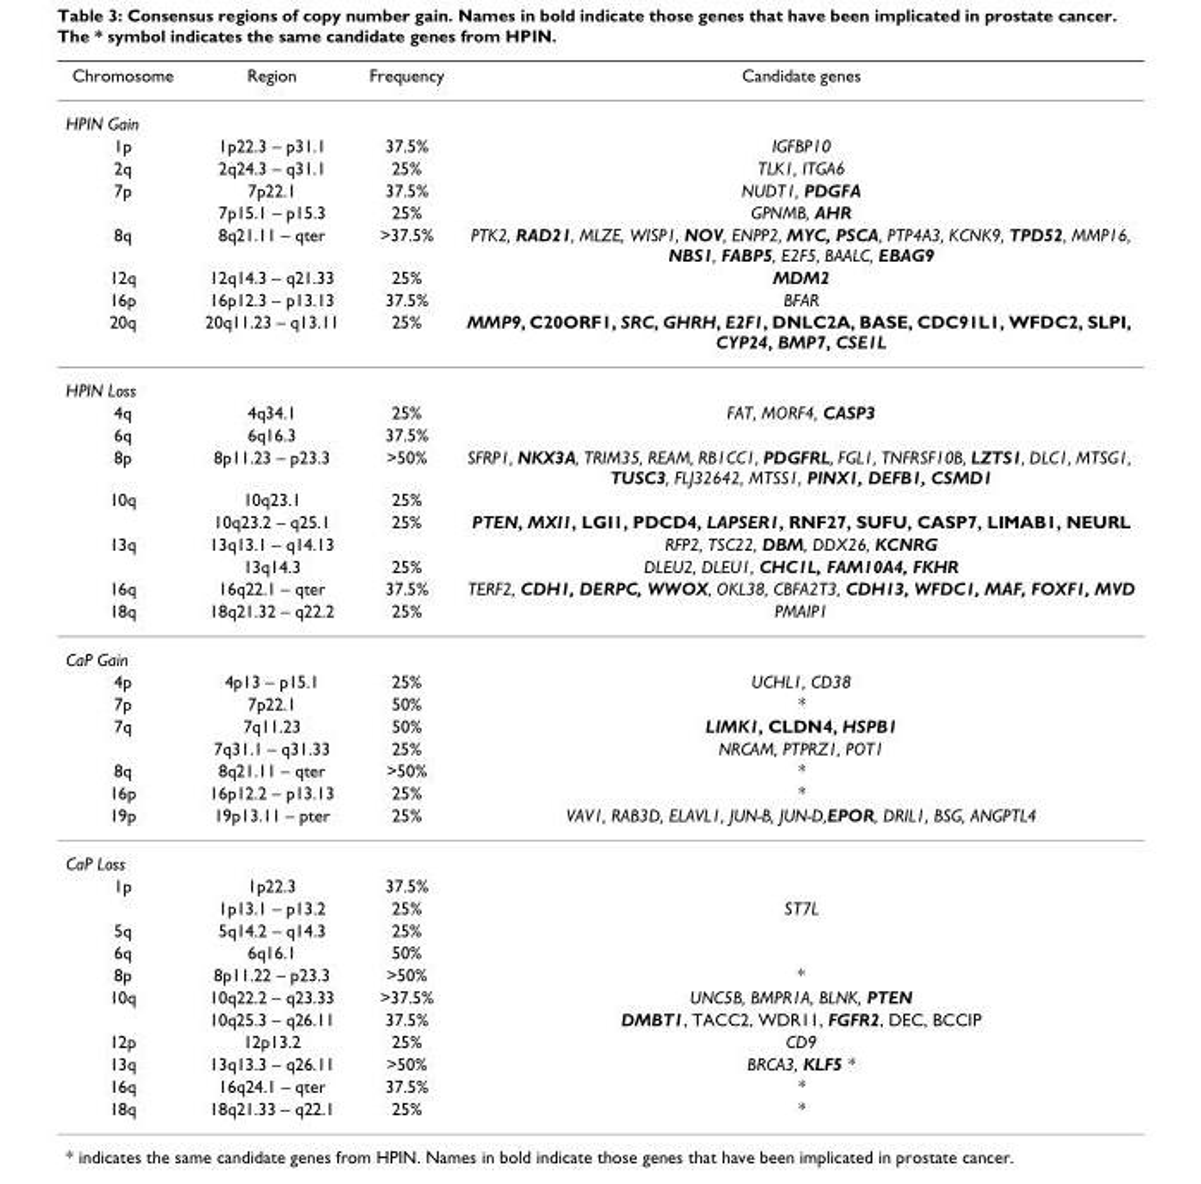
<table><thead><tr><td>Chromosome</td><td>Region</td><td>Frequency</td><td>Candidate genes</td></tr></thead><tbody><tr><td colspan="4">HPIN Gain</td></tr><tr><td>1p</td><td>1p22.3 – p31.1</td><td>37.5%</td><td>IGFBP10</td></tr><tr><td>2q</td><td>2q24.3 – q31.1</td><td>25%</td><td>TLK1, ITGA6</td></tr><tr><td rowspan="2">7p</td><td>7p22.1</td><td>37.5%</td><td>NUDT1, PDGFA</td></tr><tr><td>7p15.1 – p15.3</td><td>25%</td><td>GPNMB, AHR</td></tr><tr><td>8q</td><td>8q21.11 – qter</td><td>&gt;37.5%</td><td>PTK2, RAD21, MLZE, WISP1, NOV, ENPP2, MYC, PSCA, PTP4A3, KCNK9, TPD52, MMP16, NBS1, FABP5, E2F5, BAALC, EBAG9</td></tr><tr><td>12q</td><td>12q14.3 – q21.33</td><td>25%</td><td>MDM2</td></tr><tr><td>16p</td><td>16p12.3 – p13.13</td><td>37.5%</td><td>BFAR</td></tr><tr><td>20q</td><td>20q11.23 – q13.11</td><td>25%</td><td>MMP9, C20ORF1, SRC, GHRH, E2F1, DNLC2A, BASE, CDC91L1, WFDC2, SLPI, CYP24, BMP7, CSE1L</td></tr><tr><td colspan="4">HPIN Loss</td></tr><tr><td>4q</td><td>4q34.1</td><td>25%</td><td>FAT, MORF4, CASP3</td></tr><tr><td>6q</td><td>6q16.3</td><td>37.5%</td><td></td></tr><tr><td>8p</td><td>8p11.23 – p23.3</td><td>&gt;50%</td><td>SFRP1, NKX3A, TRIM35, REAM, RB1CC1, PDGFRL, FGL1, TNFRSF10B, LZTS1, DLC1, MTSG1, TUSC3, FLJ32642, MTSS1, PINX1, DEFB1, CSMD1</td></tr><tr><td rowspan="2">10q</td><td>10q23.1</td><td>25%</td><td></td></tr><tr><td>10q23.2 – q25.1</td><td>25%</td><td>PTEN, MXI1, LGI1, PDCD4, LAPSER1, RNF27, SUFU, CASP7, LIMAB1, NEURL</td></tr><tr><td rowspan="2">13q</td><td>13q13.1 – q14.13</td><td></td><td>RFP2, TSC22, DBM, DDX26, KCNRG</td></tr><tr><td>13q14.3</td><td>25%</td><td>DLEU2, DLEU1, CHC1L, FAM10A4, FKHR</td></tr><tr><td>16q</td><td>16q22.1 – qter</td><td>37.5%</td><td>TERF2, CDH1, DERPC, WWOX, OKL38, CBFA2T3, CDH13, WFDC1, MAF, FOXF1, MVD</td></tr><tr><td>18q</td><td>18q21.32 – q22.2</td><td>25%</td><td>PMAIP1</td></tr><tr><td colspan="4">CaP Gain</td></tr><tr><td>4p</td><td>4p13 – p15.1</td><td>25%</td><td>UCHL1, CD38</td></tr><tr><td>7p</td><td>7p22.1</td><td>50%</td><td>*</td></tr><tr><td rowspan="2">7q</td><td>7q11.23</td><td>50%</td><td>LIMK1, CLDN4, HSPB1</td></tr><tr><td>7q31.1 – q31.33</td><td>25%</td><td>NRCAM, PTPRZ1, POT1</td></tr><tr><td>8q</td><td>8q21.11 – qter</td><td>&gt;50%</td><td>*</td></tr><tr><td>16p</td><td>16p12.2 – p13.13</td><td>25%</td><td>*</td></tr><tr><td>19p</td><td>19p13.11 – pter</td><td>25%</td><td>VAV1, RAB3D, ELAVL1, JUN-B, JUN-D,EPOR, DRIL1, BSG, ANGPTL4</td></tr><tr><td colspan="4">CaP Loss</td></tr><tr><td rowspan="2">1p</td><td>1p22.3</td><td>37.5%</td><td></td></tr><tr><td>1p13.1 – p13.2</td><td>25%</td><td>ST7L</td></tr><tr><td>5q</td><td>5q14.2 – q14.3</td><td>25%</td><td></td></tr><tr><td>6q</td><td>6q16.1</td><td>50%</td><td></td></tr><tr><td>8p</td><td>8p11.22 – p23.3</td><td>&gt;50%</td><td>*</td></tr><tr><td rowspan="2">10q</td><td>10q22.2 – q23.33</td><td>&gt;37.5%</td><td>UNC5B, BMPR1A, BLNK, PTEN</td></tr><tr><td>10q25.3 – q26.11</td><td>37.5%</td><td>DMBT1, TACC2, WDR11, FGFR2, DEC, BCCIP</td></tr><tr><td>12p</td><td>12p13.2</td><td>25%</td><td>CD9</td></tr><tr><td>13q</td><td>13q13.3 – q26.11</td><td>&gt;50%</td><td>BRCA3, KLF5 *</td></tr><tr><td>16q</td><td>16q24.1 – qter</td><td>37.5%</td><td>*</td></tr><tr><td>18q</td><td>18q21.33 – q22.1</td><td>25%</td><td>*</td></tr></tbody></table>